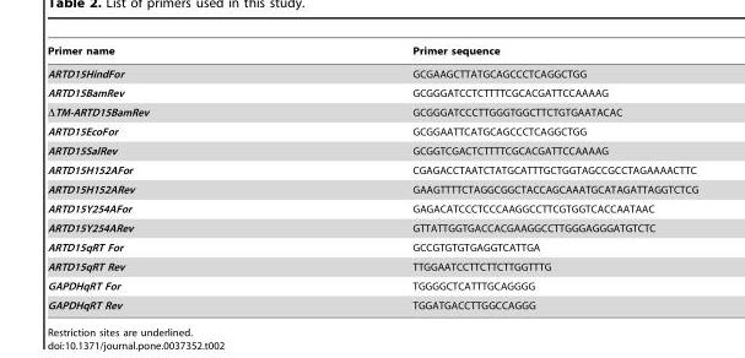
<table><thead><tr><td>Primer name</td><td>Primer sequence</td></tr></thead><tbody><tr><td>ARTD15HindFor</td><td>GCGAAGCTTATGCAGCCCTCAGGCTGG</td></tr><tr><td>ARTD15BamRev</td><td>GCGGGATCCTCTTTTCGCACGATTCCAAAAG</td></tr><tr><td>ΔTM-ARTD15BamRev</td><td>GCGGGATCCCTTGGGTGGCTTCTGTGAATACAC</td></tr><tr><td>ARTD15EcoFor</td><td>GCGGAATTCATGCAGCCCTCAGGCTGG</td></tr><tr><td>ARTD15SalRev</td><td>GCGGTCGACTCTTTTCGCACGATTCCAAAAG</td></tr><tr><td>ARTD15H152AFor</td><td>CGAGACCTAATCTATGCATTTGCTGGTAGCCGCCTAGAAAACTTC</td></tr><tr><td>ARTD15H152ARev</td><td>GAAGTTTTCTAGGCGGCTACCAGCAAATGCATAGATTAGGTCTCG</td></tr><tr><td>ARTD15Y254AFor</td><td>GAGACATCCCTCCCAAGGCCTTCGTGGTCACCAATAAC</td></tr><tr><td>ARTD15Y254ARev</td><td>GTTATTGGTGACCACGAAGGCCTTGGGAGGGATGTCTC</td></tr><tr><td>ARTD15qRT For</td><td>GCCGTGTGTGAGGTCATTGA</td></tr><tr><td>ARTD15qRT Rev</td><td>TTGGAATCCTTCTTCTTGGTTTG</td></tr><tr><td>GAPDHqRT For</td><td>TGGGGCTCATTTGCAGGGG</td></tr><tr><td>GAPDHqRT Rev</td><td>TGGATGACCTTGGCCAGGG</td></tr></tbody></table>